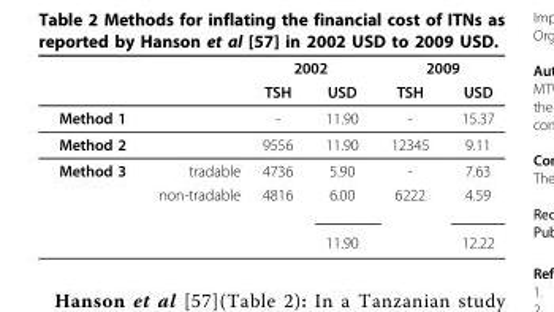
<table><thead><tr><td rowspan="2"></td><td rowspan="2"></td><td colspan="2">2002</td><td colspan="2">2009</td></tr><tr><td>TSH</td><td>USD</td><td>TSH</td><td>USD</td></tr></thead><tbody><tr><td>Method 1</td><td></td><td>-</td><td>11.90</td><td>-</td><td>15.37</td></tr><tr><td>Method 2</td><td></td><td>9556</td><td>11.90</td><td>12345</td><td>9.11</td></tr><tr><td rowspan="3">Method 3</td><td>tradable</td><td>4736</td><td>5.90</td><td>-</td><td>7.63</td></tr><tr><td>non-tradable</td><td>4816</td><td>6.00</td><td>6222</td><td>4.59</td></tr><tr><td></td><td></td><td>11.90</td><td></td><td>12.22</td></tr></tbody></table>